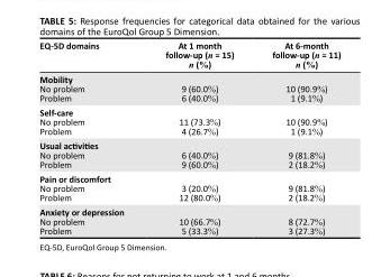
<table><thead><tr><td>EQ-5D domains</td><td>At 1 month follow-up (n = 15) n (%)</td><td>At 6-month follow-up (n = 11) n (%)</td></tr></thead><tbody><tr><td>Mobility No problem Problem</td><td>9 (60.0%) 6 (40.0%)</td><td>10 (90.9%) 1 (9.1%)</td></tr><tr><td>Self-care No problem Problem</td><td>11 (73.3%) 4 (26.7%)</td><td>10 (90.9%) 1 (9.1%)</td></tr><tr><td>Usual activities No problem Problem</td><td>6 (40.0%) 9 (60.0%)</td><td>9 (81.8%) 2 (18.2%)</td></tr><tr><td>Pain or discomfort No problem Problem</td><td>3 (20.0%) 12 (80.0%)</td><td>9 (81.8%) 2 (18.2%)</td></tr><tr><td>Anxiety or depression No problem Problem</td><td>10 (66.7%) 5 (33.3%)</td><td>8 (72.7%) 3 (27.3%)</td></tr></tbody></table>